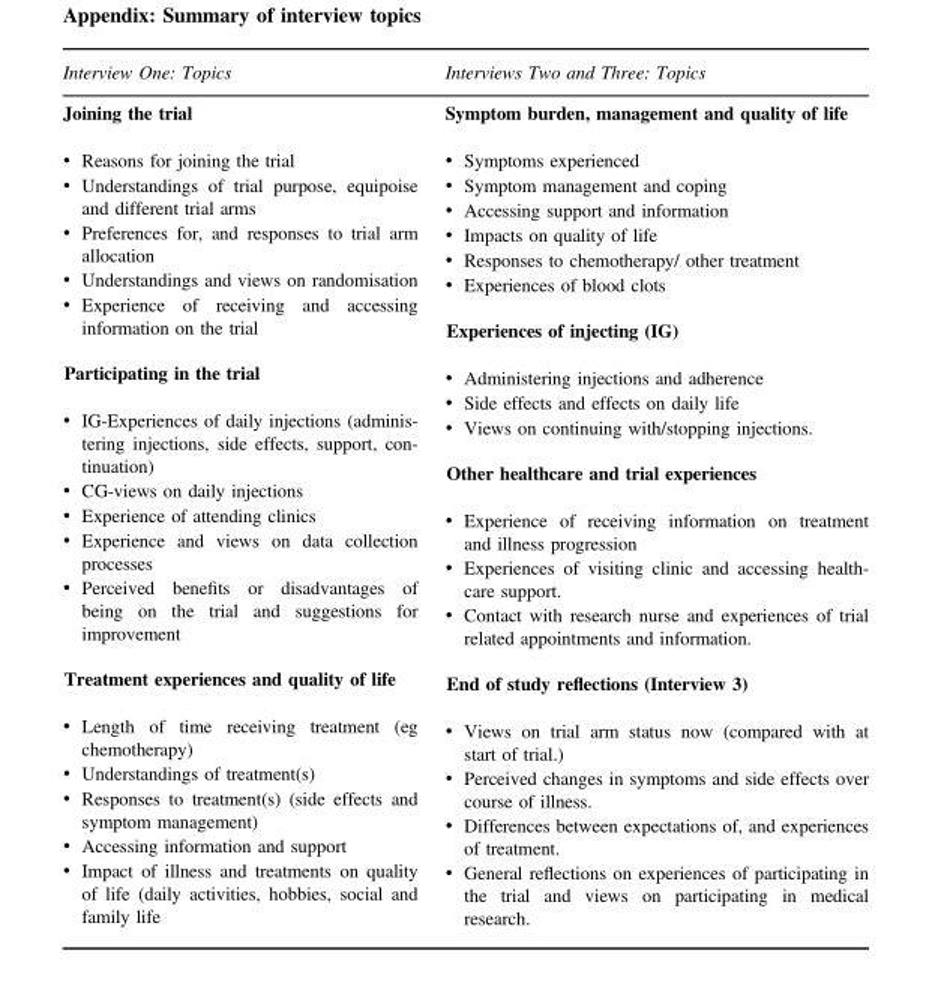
<table><thead><tr><td>Interview One: Topics</td><td>Interviews Two and Three: Topics</td></tr></thead><tbody><tr><td>Joining the trial • Reasons for joining the trial • Understandings of trial purpose, equipoise and different trial arms • Preferences for, and responses to trial arm allocation • Understandings and views on randomisation • Experience of receiving and accessing information on the trial Participating in the trial • IG-Experiences of daily injections (adminis- tering injections, side effects, support, con- tinuation) • CG-views on daily injections • Experience of attending clinics • Experience and views on data collection processes • Perceived benefits or disadvantages of being on the trial and suggestions for improvement Treatment experiences and quality of life • Length of time receiving treatment (eg chemotherapy) • Understandings of treatment(s) • Responses to treatment(s) (side effects and symptom management) • Accessing information and support • Impact of illness and treatments on quality of life (daily activities, hobbies, social and family life</td><td>Symptom burden, management and quality of life • Symptoms experienced • Symptom management and coping • Accessing support and information • Impacts on quality of life • Responses to chemotherapy/ other treatment • Experiences of blood clots Experiences of injecting (IG) • Administering injections and adherence • Side effects and effects on daily life • Views on continuing with/stopping injections. Other healthcare and trial experiences • Experience of receiving information on treatment and illness progression • Experiences of visiting clinic and accessing health- care support. • Contact with research nurse and experiences of trial related appointments and information. End of study reflections (Interview 3) • Views on trial arm status now (compared with at start of trial.) • Perceived changes in symptoms and side effects over course of illness. • Differences between expectations of, and experiences of treatment. • General reflections on experiences of participating in the trial and views on participating in medical research.</td></tr></tbody></table>